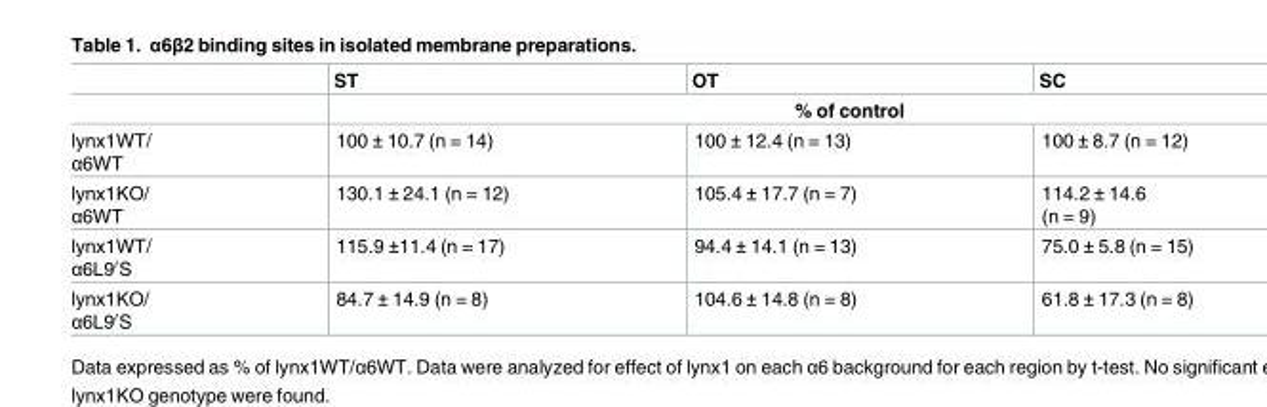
<table><thead><tr><td rowspan="2"></td><td>ST</td><td>OT</td><td>SC</td></tr><tr><td colspan="3">% of control</td></tr></thead><tbody><tr><td>lynx1WT/ α6WT</td><td>100 ± 10.7 (n = 14)</td><td>100 ± 12.4 (n = 13)</td><td>100 ± 8.7 (n = 12)</td></tr><tr><td>lynx1KO/ α6WT</td><td>130.1 ± 24.1 (n = 12)</td><td>105.4 ± 17.7 (n = 7)</td><td>114.2 ± 14.6 (n = 9)</td></tr><tr><td>lynx1WT/ α6L9′S</td><td>115.9 ±11.4 (n = 17)</td><td>94.4 ± 14.1 (n = 13)</td><td>75.0 ± 5.8 (n = 15)</td></tr><tr><td>lynx1KO/ α6L9′S</td><td>84.7 ± 14.9 (n = 8)</td><td>104.6 ± 14.8 (n = 8)</td><td>61.8 ± 17.3 (n = 8)</td></tr></tbody></table>